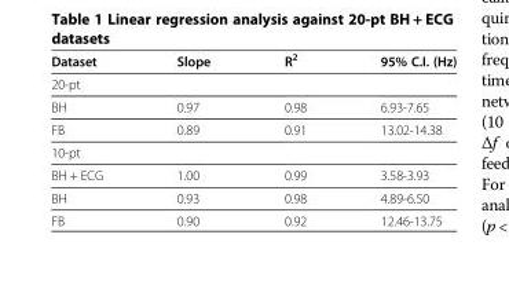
<table><thead><tr><td>Dataset</td><td>Slope</td><td>R<sup>2</sup></td><td>95% C.I. (Hz)</td></tr></thead><tbody><tr><td colspan="4">20-pt</td></tr><tr><td>BH</td><td>0.97</td><td>0.98</td><td>6.93-7.65</td></tr><tr><td>FB</td><td>0.89</td><td>0.91</td><td>13.02-14.38</td></tr><tr><td colspan="4">10-pt</td></tr><tr><td>BH + ECG</td><td>1.00</td><td>0.99</td><td>3.58-3.93</td></tr><tr><td>BH</td><td>0.93</td><td>0.98</td><td>4.89-6.50</td></tr><tr><td>FB</td><td>0.90</td><td>0.92</td><td>12.46-13.75</td></tr></tbody></table>